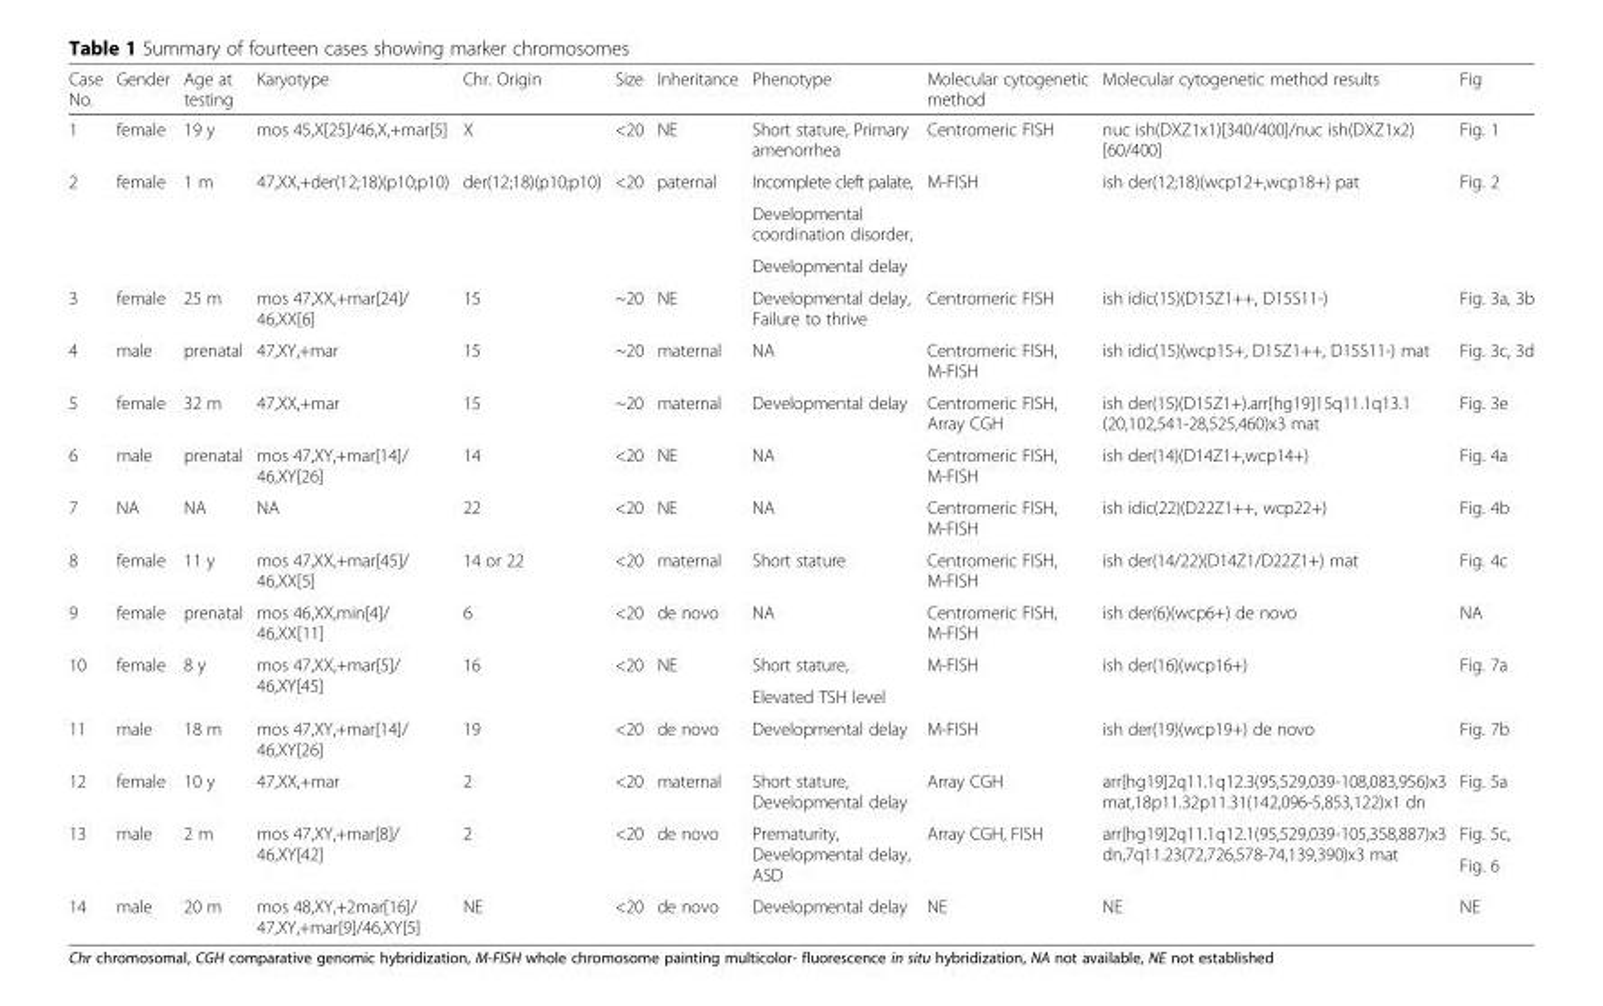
<table><thead><tr><td>Case No.</td><td>Gender</td><td>Age at testing</td><td>Karyotype</td><td>Chr. Origin</td><td>Size</td><td>Inheritance</td><td>Phenotype</td><td>Molecular cytogenetic method</td><td>Molecular cytogenetic method results</td><td>Fig</td></tr></thead><tbody><tr><td>1</td><td>female</td><td>19 y</td><td>mos 45,X[25]/46,X,+mar[5]</td><td>X</td><td>&lt;20</td><td>NE</td><td>Short stature, Primary amenorrhea</td><td>Centromeric FISH</td><td>nuc ish(DXZ1x1)[340/400]/nuc ish(DXZ1x2) [60/400]</td><td>Fig. 1</td></tr><tr><td rowspan="3">2</td><td rowspan="3">female</td><td rowspan="3">1 m</td><td rowspan="3">47,XX,+der(12;18)(p10;p10)</td><td rowspan="3">der(12;18)(p10;p10)</td><td rowspan="3">&lt;20</td><td rowspan="3">paternal</td><td>Incomplete cleft palate,</td><td rowspan="3">M-FISH</td><td rowspan="3">ish der(12;18)(wcp12+,wcp18+) pat</td><td rowspan="3">Fig. 2</td></tr><tr><td>Developmental coordination disorder,</td></tr><tr><td>Developmental delay</td></tr><tr><td>3</td><td>female</td><td>25 m</td><td>mos 47,XX,+mar[24]/ 46,XX[6]</td><td>15</td><td>~20</td><td>NE</td><td>Developmental delay, Failure to thrive</td><td>Centromeric FISH</td><td>ish idic(15)(D15Z1++, D15S11-)</td><td>Fig. 3a, 3b</td></tr><tr><td>4</td><td>male</td><td>prenatal</td><td>47,XY,+mar</td><td>15</td><td>~20</td><td>maternal</td><td>NA</td><td>Centromeric FISH, M-FISH</td><td>ish idic(15)(wcp15+, D15Z1++, D15S11-) mat</td><td>Fig. 3c, 3d</td></tr><tr><td>5</td><td>female</td><td>32 m</td><td>47,XX,+mar</td><td>15</td><td>~20</td><td>maternal</td><td>Developmental delay</td><td>Centromeric FISH, Array CGH</td><td>ish der(15)(D15Z1+).arr[hg19]15q11.1q13.1 (20,102,541-28,525,460)x3 mat</td><td>Fig. 3e</td></tr><tr><td>6</td><td>male</td><td>prenatal</td><td>mos 47,XY,+mar[14]/ 46,XY[26]</td><td>14</td><td>&lt;20</td><td>NE</td><td>NA</td><td>Centromeric FISH, M-FISH</td><td>ish der(14)(D14Z1+,wcp14+)</td><td>Fig. 4a</td></tr><tr><td>7</td><td>NA</td><td>NA</td><td>NA</td><td>22</td><td>&lt;20</td><td>NE</td><td>NA</td><td>Centromeric FISH, M-FISH</td><td>ish idic(22)(D22Z1++, wcp22+)</td><td>Fig. 4b</td></tr><tr><td>8</td><td>female</td><td>11 y</td><td>mos 47,XX,+mar[45]/ 46,XX[5]</td><td>14 or 22</td><td>&lt;20</td><td>maternal</td><td>Short stature</td><td>Centromeric FISH, M-FISH</td><td>ish der(14/22)(D14Z1/D22Z1+) mat</td><td>Fig. 4c</td></tr><tr><td>9</td><td>female</td><td>prenatal</td><td>mos 46,XX,min[4]/ 46,XX[11]</td><td>6</td><td>&lt;20</td><td>de novo</td><td>NA</td><td>Centromeric FISH, M-FISH</td><td>ish der(6)(wcp6+) de novo</td><td>NA</td></tr><tr><td rowspan="2">10</td><td rowspan="2">female</td><td rowspan="2">8 y</td><td rowspan="2">mos 47,XX,+mar[5]/ 46,XY[45]</td><td rowspan="2">16</td><td rowspan="2">&lt;20</td><td rowspan="2">NE</td><td>Short stature,</td><td rowspan="2">M-FISH</td><td rowspan="2">ish der(16)(wcp16+)</td><td rowspan="2">Fig. 7a</td></tr><tr><td>Elevated TSH level</td></tr><tr><td>11</td><td>male</td><td>18 m</td><td>mos 47,XY,+mar[14]/ 46,XY[26]</td><td>19</td><td>&lt;20</td><td>de novo</td><td>Developmental delay</td><td>M-FISH</td><td>ish der(19)(wcp19+) de novo</td><td>Fig. 7b</td></tr><tr><td>12</td><td>female</td><td>10 y</td><td>47,XX,+mar</td><td>2</td><td>&lt;20</td><td>maternal</td><td>Short stature, Developmental delay</td><td>Array CGH</td><td>arr[hg19]2q11.1q12.3(95,529,039-108,083,956)x3 mat,18p11.32p11.31(142,096-5,853,122)x1 dn</td><td>Fig. 5a</td></tr><tr><td rowspan="2">13</td><td rowspan="2">male</td><td rowspan="2">2 m</td><td rowspan="2">mos 47,XY,+mar[8]/ 46,XY[42]</td><td rowspan="2">2</td><td rowspan="2">&lt;20</td><td rowspan="2">de novo</td><td rowspan="2">Prematurity, Developmental delay, ASD</td><td rowspan="2">Array CGH, FISH</td><td rowspan="2">arr[hg19]2q11.1q12.1(95,529,039-105,358,887)x3 dn,7q11.23(72,726,578-74,139,390)x3 mat</td><td>Fig. 5c,</td></tr><tr><td>Fig. 6</td></tr><tr><td>14</td><td>male</td><td>20 m</td><td>mos 48,XY,+2mar[16]/ 47,XY,+mar[9]/46,XY[5]</td><td>NE</td><td>&lt;20</td><td>de novo</td><td>Developmental delay</td><td>NE</td><td>NE</td><td>NE</td></tr></tbody></table>